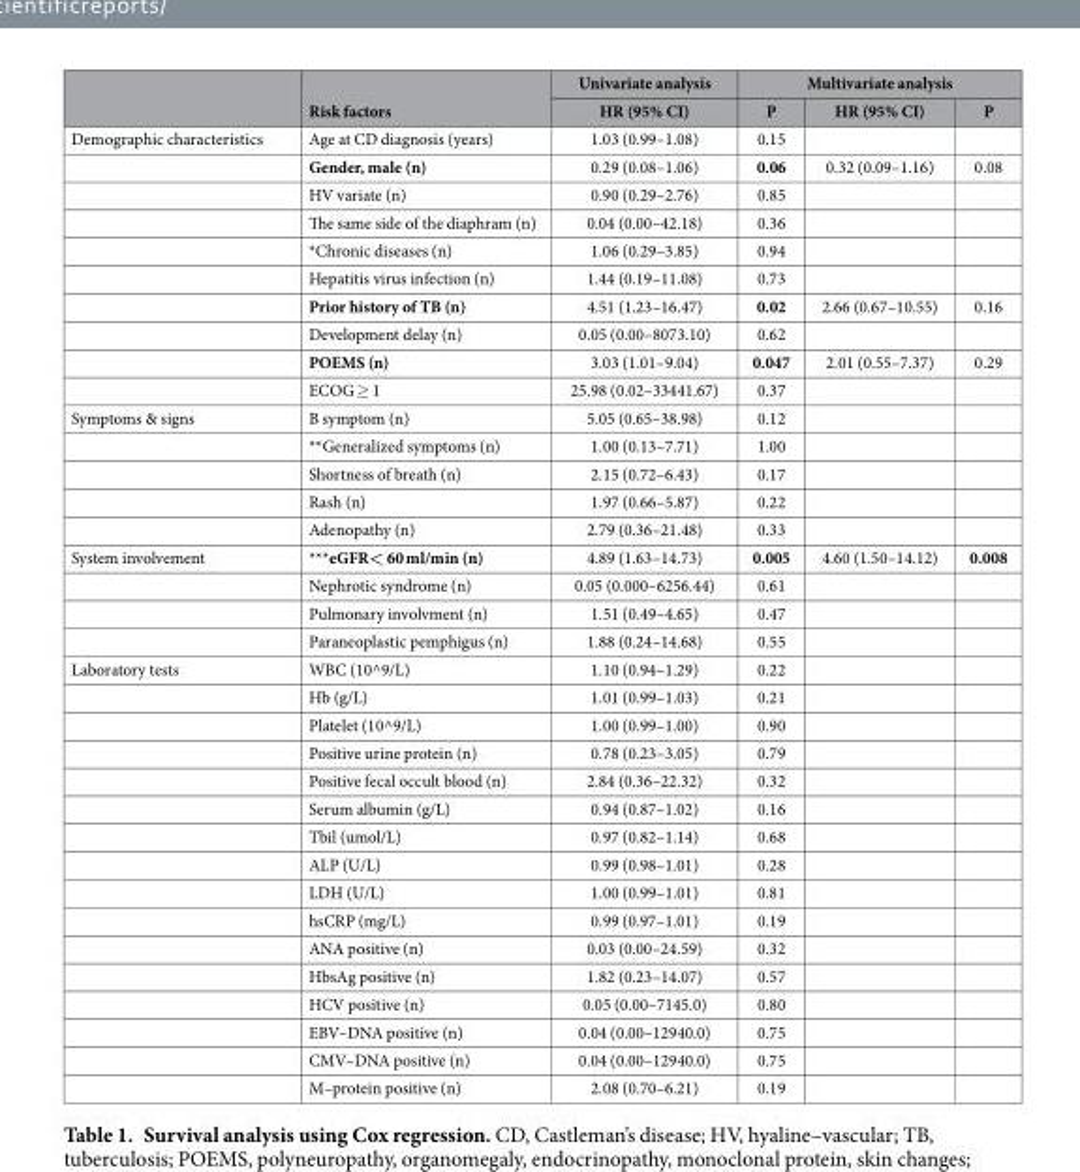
<table><thead><tr><td rowspan="2"></td><td rowspan="2">Risk factors</td><td rowspan="2">Univariate analysis HR (95% CI)</td><td colspan="3">Multivariate analysis</td></tr><tr><td>P</td><td>HR (95% CI)</td><td>P</td></tr></thead><tbody><tr><td rowspan="10">Demographic characteristics</td><td>Age at CD diagnosis (years)</td><td>1.03 (0.99–1.08)</td><td>0.15</td><td></td><td></td></tr><tr><td>Gender, male (n)</td><td>0.29 (0.08–1.06)</td><td>0.06</td><td>0.32 (0.09–1.16)</td><td>0.08</td></tr><tr><td>HV variate (n)</td><td>0.90 (0.29–2.76)</td><td>0.85</td><td></td><td></td></tr><tr><td>The same side of the diaphram (n)</td><td>0.04 (0.00–42.18)</td><td>0.36</td><td></td><td></td></tr><tr><td>*Chronic diseases (n)</td><td>1.06 (0.29–3.85)</td><td>0.94</td><td></td><td></td></tr><tr><td>Hepatitis virus infection (n)</td><td>1.44 (0.19–11.08)</td><td>0.73</td><td></td><td></td></tr><tr><td>Prior history of TB (n)</td><td>4.51 (1.23–16.47)</td><td>0.02</td><td>2.66 (0.67–10.55)</td><td>0.16</td></tr><tr><td>Development delay (n)</td><td>0.05 (0.00–8073.10)</td><td>0.62</td><td></td><td></td></tr><tr><td>POEMS (n)</td><td>3.03 (1.01–9.04)</td><td>0.047</td><td>2.01 (0.55–7.37)</td><td>0.29</td></tr><tr><td>ECOG ≥ 1</td><td>25.98 (0.02–33441.67)</td><td>0.37</td><td></td><td></td></tr><tr><td rowspan="5">Symptoms &amp; signs</td><td>B symptom (n)</td><td>5.05 (0.65–38.98)</td><td>0.12</td><td></td><td></td></tr><tr><td>**Generalized symptoms (n)</td><td>1.00 (0.13–7.71)</td><td>1.00</td><td></td><td></td></tr><tr><td>Shortness of breath (n)</td><td>2.15 (0.72–6.43)</td><td>0.17</td><td></td><td></td></tr><tr><td>Rash (n)</td><td>1.97 (0.66–5.87)</td><td>0.22</td><td></td><td></td></tr><tr><td>Adenopathy (n)</td><td>2.79 (0.36–21.48)</td><td>0.33</td><td></td><td></td></tr><tr><td rowspan="4">System involvement</td><td>***eGFR&lt; 60 ml/min (n)</td><td>4.89 (1.63–14.73)</td><td>0.005</td><td>4.60 (1.50–14.12)</td><td>0.008</td></tr><tr><td>Nephrotic syndrome (n)</td><td>0.05 (0.000–6256.44)</td><td>0.61</td><td></td><td></td></tr><tr><td>Pulmonary involvment (n)</td><td>1.51 (0.49–4.65)</td><td>0.47</td><td></td><td></td></tr><tr><td>Paraneoplastic pemphigus (n)</td><td>1.88 (0.24–14.68)</td><td>0.55</td><td></td><td></td></tr><tr><td rowspan="16">Laboratory tests</td><td>WBC (10^9/L)</td><td>1.10 (0.94–1.29)</td><td>0.22</td><td></td><td></td></tr><tr><td>Hb (g/L)</td><td>1.01 (0.99–1.03)</td><td>0.21</td><td></td><td></td></tr><tr><td>Platelet (10^9/L)</td><td>1.00 (0.99–1.00)</td><td>0.90</td><td></td><td></td></tr><tr><td>Positive urine protein (n)</td><td>0.78 (0.23–3.05)</td><td>0.79</td><td></td><td></td></tr><tr><td>Positive fecal occult blood (n)</td><td>2.84 (0.36–22.32)</td><td>0.32</td><td></td><td></td></tr><tr><td>Serum albumin (g/L)</td><td>0.94 (0.87–1.02)</td><td>0.16</td><td></td><td></td></tr><tr><td>Tbil (umol/L)</td><td>0.97 (0.82–1.14)</td><td>0.68</td><td></td><td></td></tr><tr><td>ALP (U/L)</td><td>0.99 (0.98–1.01)</td><td>0.28</td><td></td><td></td></tr><tr><td>LDH (U/L)</td><td>1.00 (0.99–1.01)</td><td>0.81</td><td></td><td></td></tr><tr><td>hsCRP (mg/L)</td><td>0.99 (0.97–1.01)</td><td>0.19</td><td></td><td></td></tr><tr><td>ANA positive (n)</td><td>0.03 (0.00–24.59)</td><td>0.32</td><td></td><td></td></tr><tr><td>HbsAg positive (n)</td><td>1.82 (0.23–14.07)</td><td>0.57</td><td></td><td></td></tr><tr><td>HCV positive (n)</td><td>0.05 (0.00–7145.0)</td><td>0.80</td><td></td><td></td></tr><tr><td>EBV–DNA positive (n)</td><td>0.04 (0.00–12940.0)</td><td>0.75</td><td></td><td></td></tr><tr><td>CMV–DNA positive (n)</td><td>0.04 (0.00–12940.0)</td><td>0.75</td><td></td><td></td></tr><tr><td>M–protein positive (n)</td><td>2.08 (0.70–6.21)</td><td>0.19</td><td></td><td></td></tr></tbody></table>